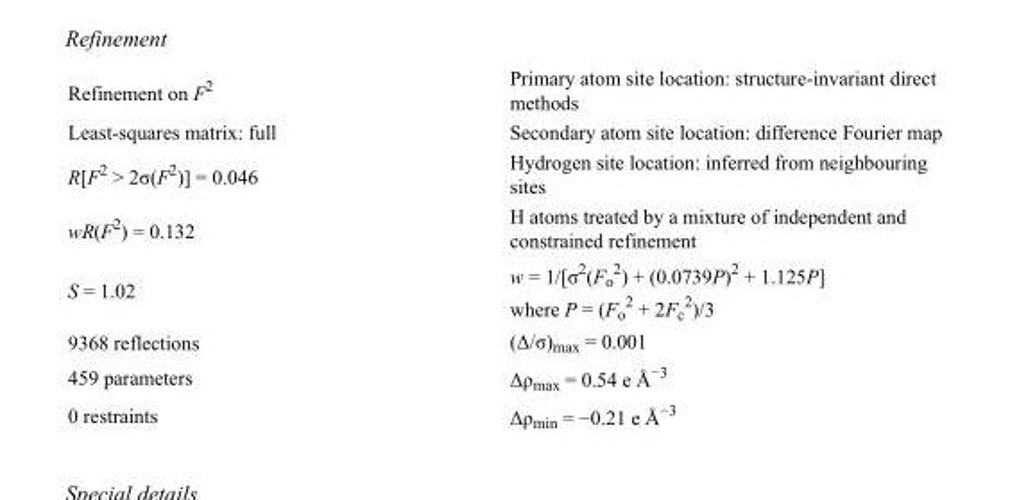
<table><tbody><tr><td>Refinement on F<sup>2</sup></td><td>Primary atom site location: structure-invariant direct methods</td></tr><tr><td>Least-squares matrix: full</td><td>Secondary atom site location: difference Fourier map</td></tr><tr><td>R[F<sup>2</sup> &gt; 2σ(F<sup>2</sup>)] = 0.046</td><td>Hydrogen site location: inferred from neighbouring sites</td></tr><tr><td>wR(F<sup>2</sup>) = 0.132</td><td>H atoms treated by a mixture of independent and constrained refinement</td></tr><tr><td>S = 1.02</td><td>w = 1/[σ<sup>2</sup>(F<sub>o</sub> <sup>2</sup>) + (0.0739P)<sup>2</sup> + 1.125P] where P = (F<sub>o</sub> <sup>2</sup> + 2F<sub>c</sub> <sup>2</sup>)/3</td></tr><tr><td>9368 reflections</td><td>(Δ/σ)<sub>max</sub> = 0.001</td></tr><tr><td>459 parameters</td><td>Δρ<sub>max</sub> = 0.54 e Å<sup>−3</sup></td></tr><tr><td>0 restraints</td><td>Δρ<sub>min</sub> = −0.21 e Å<sup>−3</sup></td></tr></tbody></table>